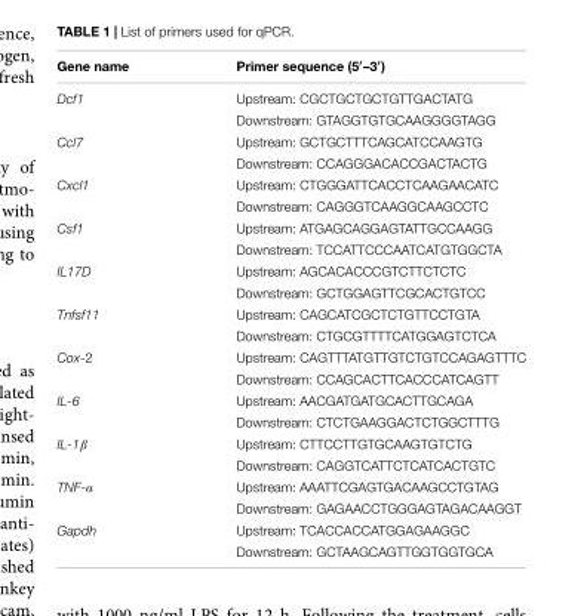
<table><thead><tr><td>Gene name</td><td>Primer sequence (5′–3′)</td></tr></thead><tbody><tr><td rowspan="2">Dcf1</td><td>Upstream: CGCTGCTGCTGTTGACTATG</td></tr><tr><td>Downstream: GTAGGTGTGCAAGGGGTAGG</td></tr><tr><td rowspan="2">Ccl7</td><td>Upstream: GCTGCTTTCAGCATCCAAGTG</td></tr><tr><td>Downstream: CCAGGGACACCGACTACTG</td></tr><tr><td rowspan="2">Cxcl1</td><td>Upstream: CTGGGATTCACCTCAAGAACATC</td></tr><tr><td>Downstream: CAGGGTCAAGGCAAGCCTC</td></tr><tr><td rowspan="2">Csf1</td><td>Upstream: ATGAGCAGGAGTATTGCCAAGG</td></tr><tr><td>Downstream: TCCATTCCCAATCATGTGGCTA</td></tr><tr><td rowspan="2">IL17D</td><td>Upstream: AGCACACCCGTCTTCTCTC</td></tr><tr><td>Downstream: GCTGGAGTTCGCACTGTCC</td></tr><tr><td rowspan="2">Tnfsf11</td><td>Upstream: CAGCATCGCTCTGTTCCTGTA</td></tr><tr><td>Downstream: CTGCGTTTTCATGGAGTCTCA</td></tr><tr><td rowspan="2">Cox-2</td><td>Upstream: CAGTTTATGTTGTCTGTCCAGAGTTTC</td></tr><tr><td>Downstream: CCAGCACTTCACCCATCAGTT</td></tr><tr><td rowspan="2">IL-6</td><td>Upstream: AACGATGATGCACTTGCAGA</td></tr><tr><td>Downstream: CTCTGAAGGACTCTGGCTTTG</td></tr><tr><td rowspan="2">IL-1β</td><td>Upstream: CTTCCTTGTGCAAGTGTCTG</td></tr><tr><td>Downstream: CAGGTCATTCTCATCACTGTC</td></tr><tr><td rowspan="2">TNF-α</td><td>Upstream: AAATTCGAGTGACAAGCCTGTAG</td></tr><tr><td>Downstream: GAGAACCTGGGAGTAGACAAGGT</td></tr><tr><td rowspan="2">Gapdh</td><td>Upstream: TCACCACCATGGAGAAGGC</td></tr><tr><td>Downstream: GCTAAGCAGTTGGTGGTGCA</td></tr></tbody></table>